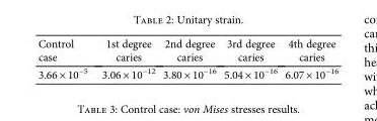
<table><thead><tr><td>Control case</td><td>1st degree caries</td><td>2nd degree caries</td><td>3rd degree caries</td><td>4th degree caries</td></tr></thead><tbody><tr><td>3.66 × 10<sup>−5</sup></td><td>3.06 × 10<sup>−12</sup></td><td>3.80 × 10<sup>−16</sup></td><td>5.04 × 10<sup>−16</sup></td><td>6.07 × 10<sup>−16</sup></td></tr></tbody></table>